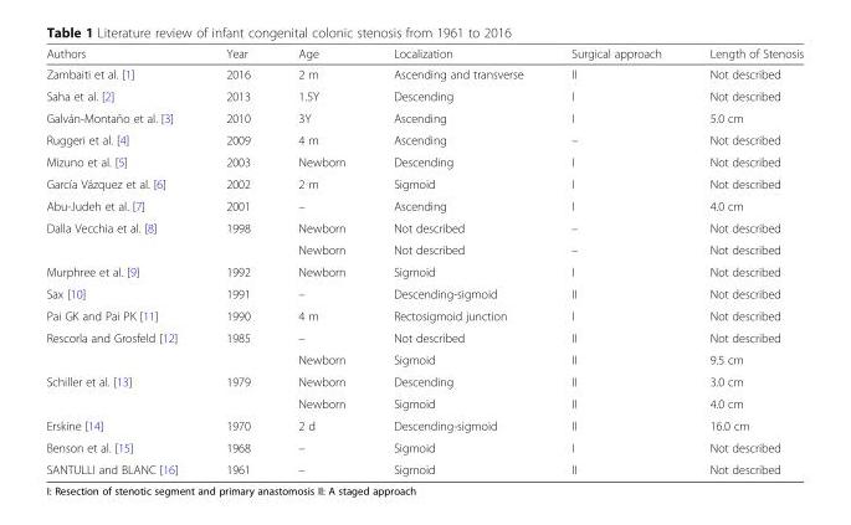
<table><thead><tr><td>Authors</td><td>Year</td><td>Age</td><td>Localization</td><td>Surgical approach</td><td>Length of Stenosis</td></tr></thead><tbody><tr><td>Zambaiti et al. [1]</td><td>2016</td><td>2 m</td><td>Ascending and transverse</td><td>II</td><td>Not described</td></tr><tr><td>Saha et al. [2]</td><td>2013</td><td>1.5Y</td><td>Descending</td><td>I</td><td>Not described</td></tr><tr><td>Galván-Montaño et al. [3]</td><td>2010</td><td>3Y</td><td>Ascending</td><td>I</td><td>5.0 cm</td></tr><tr><td>Ruggeri et al. [4]</td><td>2009</td><td>4 m</td><td>Ascending</td><td>–</td><td>Not described</td></tr><tr><td>Mizuno et al. [5]</td><td>2003</td><td>Newborn</td><td>Descending</td><td>I</td><td>Not described</td></tr><tr><td>García Vázquez et al. [6]</td><td>2002</td><td>2 m</td><td>Sigmoid</td><td>I</td><td>Not described</td></tr><tr><td>Abu-Judeh et al. [7]</td><td>2001</td><td>–</td><td>Ascending</td><td>I</td><td>4.0 cm</td></tr><tr><td rowspan="2">Dalla Vecchia et al. [8]</td><td rowspan="2">1998</td><td>Newborn</td><td>Not described</td><td>–</td><td>Not described</td></tr><tr><td>Newborn</td><td>Not described</td><td>–</td><td>Not described</td></tr><tr><td>Murphree et al. [9]</td><td>1992</td><td>Newborn</td><td>Sigmoid</td><td>I</td><td>Not described</td></tr><tr><td>Sax [10]</td><td>1991</td><td>–</td><td>Descending-sigmoid</td><td>II</td><td>Not described</td></tr><tr><td>Pai GK and Pai PK [11]</td><td>1990</td><td>4 m</td><td>Rectosigmoid junction</td><td>I</td><td>Not described</td></tr><tr><td rowspan="2">Rescorla and Grosfeld [12]</td><td rowspan="2">1985</td><td>–</td><td>Not described</td><td>II</td><td>Not described</td></tr><tr><td>Newborn</td><td>Sigmoid</td><td>II</td><td>9.5 cm</td></tr><tr><td rowspan="2">Schiller et al. [13]</td><td rowspan="2">1979</td><td>Newborn</td><td>Descending</td><td>II</td><td>3.0 cm</td></tr><tr><td>Newborn</td><td>Sigmoid</td><td>II</td><td>4.0 cm</td></tr><tr><td>Erskine [14]</td><td>1970</td><td>2 d</td><td>Descending-sigmoid</td><td>II</td><td>16.0 cm</td></tr><tr><td>Benson et al. [15]</td><td>1968</td><td>–</td><td>Sigmoid</td><td>I</td><td>Not described</td></tr><tr><td>SANTULLI and BLANC [16]</td><td>1961</td><td>–</td><td>Sigmoid</td><td>II</td><td>Not described</td></tr></tbody></table>